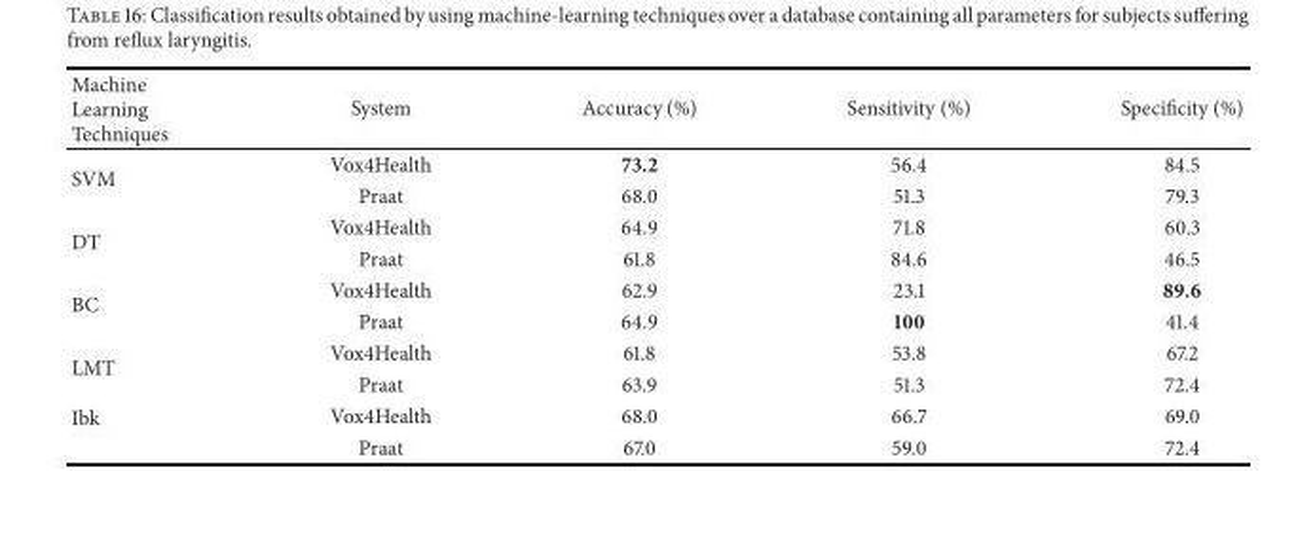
<table><thead><tr><td>Machine Learning Techniques</td><td>System</td><td>Accuracy (%)</td><td>Sensitivity (%)</td><td>Specificity (%)</td></tr></thead><tbody><tr><td rowspan="2">SVM</td><td>Vox4Health</td><td>73.2</td><td>56.4</td><td>84.5</td></tr><tr><td>Praat</td><td>68.0</td><td>51.3</td><td>79.3</td></tr><tr><td rowspan="2">DT</td><td>Vox4Health</td><td>64.9</td><td>71.8</td><td>60.3</td></tr><tr><td>Praat</td><td>61.8</td><td>84.6</td><td>46.5</td></tr><tr><td rowspan="2">BC</td><td>Vox4Health</td><td>62.9</td><td>23.1</td><td>89.6</td></tr><tr><td>Praat</td><td>64.9</td><td>100</td><td>41.4</td></tr><tr><td rowspan="2">LMT</td><td>Vox4Health</td><td>61.8</td><td>53.8</td><td>67.2</td></tr><tr><td>Praat</td><td>63.9</td><td>51.3</td><td>72.4</td></tr><tr><td rowspan="2">Ibk</td><td>Vox4Health</td><td>68.0</td><td>66.7</td><td>69.0</td></tr><tr><td>Praat</td><td>67.0</td><td>59.0</td><td>72.4</td></tr></tbody></table>